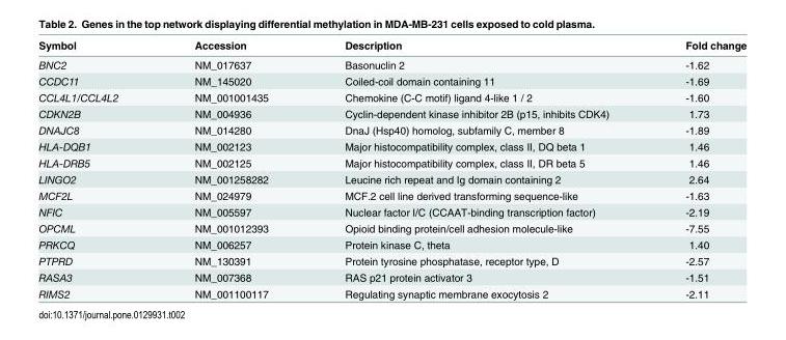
<table><thead><tr><td>Symbol</td><td>Accession</td><td>Description</td><td>Fold change</td></tr></thead><tbody><tr><td>BNC2</td><td>NM_017637</td><td>Basonuclin 2</td><td>-1.62</td></tr><tr><td>CCDC11</td><td>NM_145020</td><td>Coiled-coil domain containing 11</td><td>-1.69</td></tr><tr><td>CCL4L1/CCL4L2</td><td>NM_001001435</td><td>Chemokine (C-C motif) ligand 4-like 1 / 2</td><td>-1.60</td></tr><tr><td>CDKN2B</td><td>NM_004936</td><td>Cyclin-dependent kinase inhibitor 2B (p15, inhibits CDK4)</td><td>1.73</td></tr><tr><td>DNAJC8</td><td>NM_014280</td><td>DnaJ (Hsp40) homolog, subfamily C, member 8</td><td>-1.89</td></tr><tr><td>HLA-DQB1</td><td>NM_002123</td><td>Major histocompatibility complex, class II, DQ beta 1</td><td>1.46</td></tr><tr><td>HLA-DRB5</td><td>NM_002125</td><td>Major histocompatibility complex, class II, DR beta 5</td><td>1.46</td></tr><tr><td>LINGO2</td><td>NM_001258282</td><td>Leucine rich repeat and Ig domain containing 2</td><td>2.64</td></tr><tr><td>MCF2L</td><td>NM_024979</td><td>MCF.2 cell line derived transforming sequence-like</td><td>-1.63</td></tr><tr><td>NFIC</td><td>NM_005597</td><td>Nuclear factor I/C (CCAAT-binding transcription factor)</td><td>-2.19</td></tr><tr><td>OPCML</td><td>NM_001012393</td><td>Opioid binding protein/cell adhesion molecule-like</td><td>-7.55</td></tr><tr><td>PRKCQ</td><td>NM_006257</td><td>Protein kinase C, theta</td><td>1.40</td></tr><tr><td>PTPRD</td><td>NM_130391</td><td>Protein tyrosine phosphatase, receptor type, D</td><td>-2.57</td></tr><tr><td>RASA3</td><td>NM_007368</td><td>RAS p21 protein activator 3</td><td>-1.51</td></tr><tr><td>RIMS2</td><td>NM_001100117</td><td>Regulating synaptic membrane exocytosis 2</td><td>-2.11</td></tr></tbody></table>